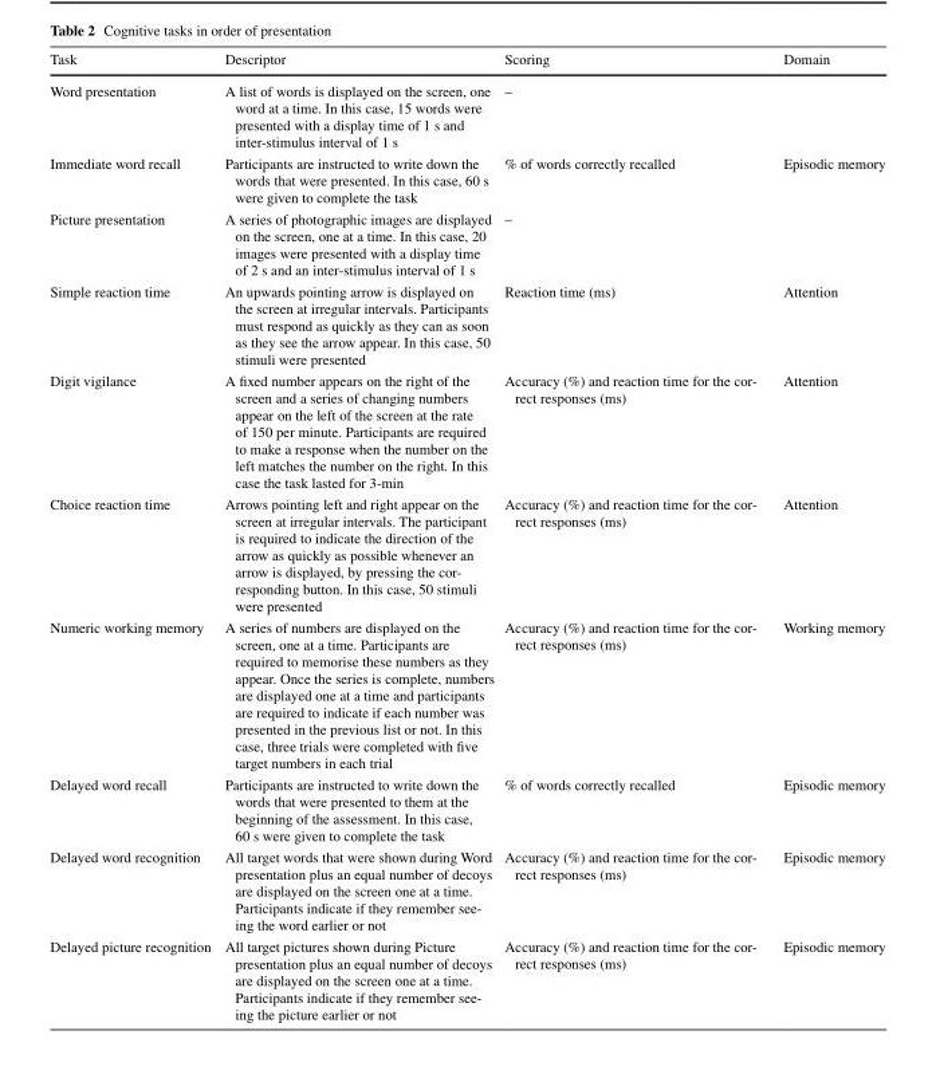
<table><thead><tr><td>Task</td><td>Descriptor</td><td>Scoring</td><td>Domain</td></tr></thead><tbody><tr><td>Word presentation</td><td>A list of words is displayed on the screen, one word at a time. In this case, 15 words were presented with a display time of 1 s and inter-stimulus interval of 1 s</td><td>–</td><td></td></tr><tr><td>Immediate word recall</td><td>Participants are instructed to write down the words that were presented. In this case, 60 s were given to complete the task</td><td>% of words correctly recalled</td><td>Episodic memory</td></tr><tr><td>Picture presentation</td><td>A series of photographic images are displayed on the screen, one at a time. In this case, 20 images were presented with a display time of 2 s and an inter-stimulus interval of 1 s</td><td>–</td><td></td></tr><tr><td>Simple reaction time</td><td>An upwards pointing arrow is displayed on the screen at irregular intervals. Participants must respond as quickly as they can as soon as they see the arrow appear. In this case, 50 stimuli were presented</td><td>Reaction time (ms)</td><td>Attention</td></tr><tr><td>Digit vigilance</td><td>A fixed number appears on the right of the screen and a series of changing numbers appear on the left of the screen at the rate of 150 per minute. Participants are required to make a response when the number on the left matches the number on the right. In this case the task lasted for 3-min</td><td>Accuracy (%) and reaction time for the cor- rect responses (ms)</td><td>Attention</td></tr><tr><td>Choice reaction time</td><td>Arrows pointing left and right appear on the screen at irregular intervals. The participant is required to indicate the direction of the arrow as quickly as possible whenever an arrow is displayed, by pressing the cor- responding button. In this case, 50 stimuli were presented</td><td>Accuracy (%) and reaction time for the cor- rect responses (ms)</td><td>Attention</td></tr><tr><td>Numeric working memory</td><td>A series of numbers are displayed on the screen, one at a time. Participants are required to memorise these numbers as they appear. Once the series is complete, numbers are displayed one at a time and participants are required to indicate if each number was presented in the previous list or not. In this case, three trials were completed with five target numbers in each trial</td><td>Accuracy (%) and reaction time for the cor- rect responses (ms)</td><td>Working memory</td></tr><tr><td>Delayed word recall</td><td>Participants are instructed to write down the words that were presented to them at the beginning of the assessment. In this case, 60 s were given to complete the task</td><td>% of words correctly recalled</td><td>Episodic memory</td></tr><tr><td>Delayed word recognition</td><td>All target words that were shown during Word presentation plus an equal number of decoys are displayed on the screen one at a time. Participants indicate if they remember see- ing the word earlier or not</td><td>Accuracy (%) and reaction time for the cor- rect responses (ms)</td><td>Episodic memory</td></tr><tr><td>Delayed picture recognition</td><td>All target pictures shown during Picture presentation plus an equal number of decoys are displayed on the screen one at a time. Participants indicate if they remember see- ing the picture earlier or not</td><td>Accuracy (%) and reaction time for the cor- rect responses (ms)</td><td>Episodic memory</td></tr></tbody></table>